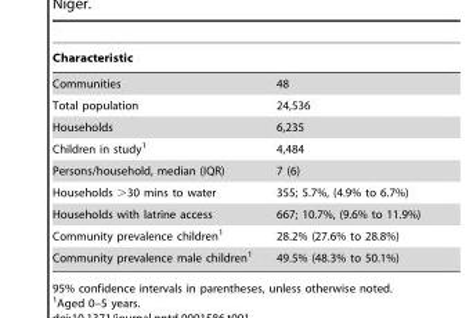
<table><thead><tr><td>Characteristic</td><td></td></tr></thead><tbody><tr><td>Communities</td><td>48</td></tr><tr><td>Total population</td><td>24,536</td></tr><tr><td>Households</td><td>6,235</td></tr><tr><td>Children in study<sup>1</sup></td><td>4,484</td></tr><tr><td>Persons/household, median (IQR)</td><td>7 (6)</td></tr><tr><td>Households &gt;30 mins to water</td><td>355; 5.7%, (4.9% to 6.7%)</td></tr><tr><td>Households with latrine access</td><td>667; 10.7%, (9.6% to 11.9%)</td></tr><tr><td>Community prevalence children<sup>1</sup></td><td>28.2% (27.6% to 28.8%)</td></tr><tr><td>Community prevalence male children<sup>1</sup></td><td>49.5% (48.3% to 50.1%)</td></tr></tbody></table>